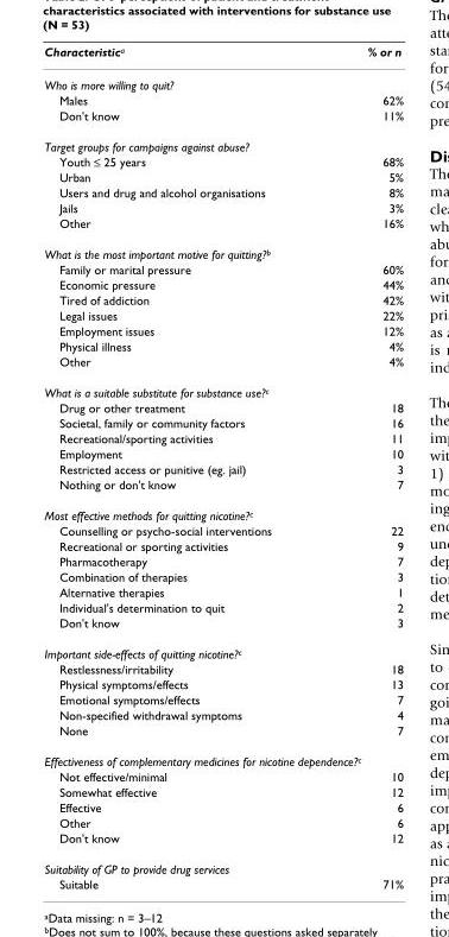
<table><thead><tr><td>Characteristic<sup>a</sup></td><td>% or n</td></tr></thead><tbody><tr><td colspan="2">Who is more willing to quit?</td></tr><tr><td>Males</td><td>62%</td></tr><tr><td>Don&#x27;t know</td><td>11%</td></tr><tr><td colspan="2">Target groups for campaigns against abuse?</td></tr><tr><td>Youth ≤ 25 years</td><td>68%</td></tr><tr><td>Urban</td><td>5%</td></tr><tr><td>Users and drug and alcohol organisations</td><td>8%</td></tr><tr><td>Jails</td><td>3%</td></tr><tr><td>Other</td><td>16%</td></tr><tr><td colspan="2">What is the most important motive for quitting?<sup>b</sup></td></tr><tr><td>Family or marital pressure</td><td>60%</td></tr><tr><td>Economic pressure</td><td>44%</td></tr><tr><td>Tired of addiction</td><td>42%</td></tr><tr><td>Legal issues</td><td>22%</td></tr><tr><td>Employment issues</td><td>12%</td></tr><tr><td>Physical illness</td><td>4%</td></tr><tr><td>Other</td><td>4%</td></tr><tr><td colspan="2">What is a suitable substitute for substance use?<sup>c</sup></td></tr><tr><td>Drug or other treatment</td><td>18</td></tr><tr><td>Societal, family or community factors</td><td>16</td></tr><tr><td>Recreational/sporting activities</td><td>11</td></tr><tr><td>Employment</td><td>10</td></tr><tr><td>Restricted access or punitive (eg. jail)</td><td>3</td></tr><tr><td>Nothing or don&#x27;t know</td><td>7</td></tr><tr><td colspan="2">Most effective methods for quitting nicotine?<sup>c</sup></td></tr><tr><td>Counselling or psycho-social interventions</td><td>22</td></tr><tr><td>Recreational or sporting activities</td><td>9</td></tr><tr><td>Pharmacotherapy</td><td>7</td></tr><tr><td>Combination of therapies</td><td>3</td></tr><tr><td>Alternative therapies</td><td>1</td></tr><tr><td>Individual&#x27;s determination to quit</td><td>2</td></tr><tr><td>Don&#x27;t know</td><td>3</td></tr><tr><td colspan="2">Important side-effects of quitting nicotine?<sup>c</sup></td></tr><tr><td>Restlessness/irritability</td><td>18</td></tr><tr><td>Physical symptoms/effects</td><td>13</td></tr><tr><td>Emotional symptoms/effects</td><td>7</td></tr><tr><td>Non-specified withdrawal symptoms</td><td>4</td></tr><tr><td>None</td><td>7</td></tr><tr><td colspan="2">Effectiveness of complementary medicines for nicotine dependence?<sup>c</sup></td></tr><tr><td>Not effective/minimal</td><td>10</td></tr><tr><td>Somewhat effective</td><td>12</td></tr><tr><td>Effective</td><td>6</td></tr><tr><td>Other</td><td>6</td></tr><tr><td>Don&#x27;t know</td><td>12</td></tr><tr><td colspan="2">Suitability of GP to provide drug services</td></tr><tr><td>Suitable</td><td>71%</td></tr></tbody></table>